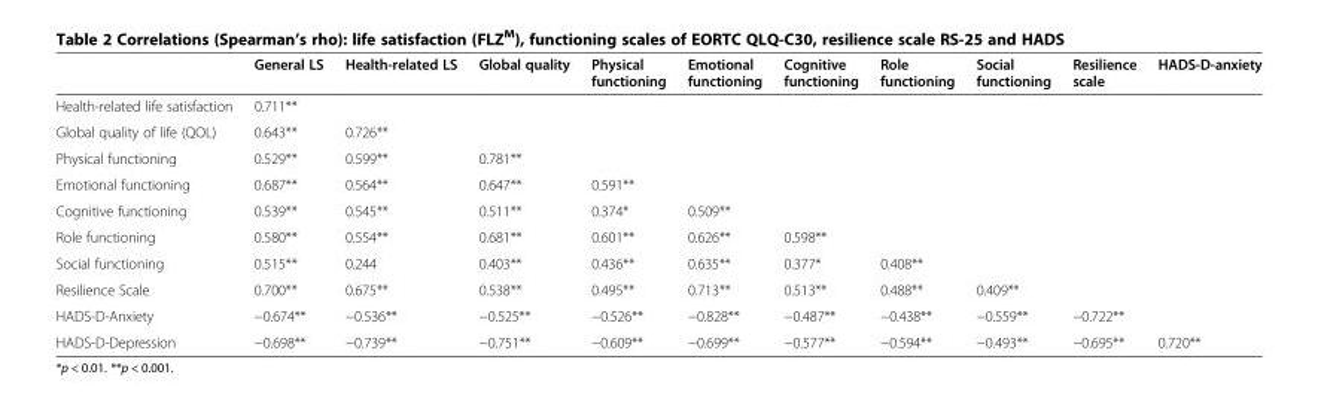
<table><thead><tr><td></td><td>General LS</td><td>Health-related LS</td><td>Global quality</td><td>Physical functioning</td><td>Emotional functioning</td><td>Cognitive functioning</td><td>Role functioning</td><td>Social functioning</td><td>Resilience scale</td><td>HADS-D-anxiety</td></tr></thead><tbody><tr><td>Health-related life satisfaction</td><td>0.711**</td><td></td><td></td><td></td><td></td><td></td><td></td><td></td><td></td><td></td></tr><tr><td>Global quality of life (QOL)</td><td>0.643**</td><td>0.726**</td><td></td><td></td><td></td><td></td><td></td><td></td><td></td><td></td></tr><tr><td>Physical functioning</td><td>0.529**</td><td>0.599**</td><td>0.781**</td><td></td><td></td><td></td><td></td><td></td><td></td><td></td></tr><tr><td>Emotional functioning</td><td>0.687**</td><td>0.564**</td><td>0.647**</td><td>0.591**</td><td></td><td></td><td></td><td></td><td></td><td></td></tr><tr><td>Cognitive functioning</td><td>0.539**</td><td>0.545**</td><td>0.511**</td><td>0.374*</td><td>0.509**</td><td></td><td></td><td></td><td></td><td></td></tr><tr><td>Role functioning</td><td>0.580**</td><td>0.554**</td><td>0.681**</td><td>0.601**</td><td>0.626**</td><td>0.598**</td><td></td><td></td><td></td><td></td></tr><tr><td>Social functioning</td><td>0.515**</td><td>0.244</td><td>0.403**</td><td>0.436**</td><td>0.635**</td><td>0.377*</td><td>0.408**</td><td></td><td></td><td></td></tr><tr><td>Resilience Scale</td><td>0.700**</td><td>0.675**</td><td>0.538**</td><td>0.495**</td><td>0.713**</td><td>0.513**</td><td>0.488**</td><td>0.409**</td><td></td><td></td></tr><tr><td>HADS-D-Anxiety</td><td>−0.674**</td><td>−0.536**</td><td>−0.525**</td><td>−0.526**</td><td>−0.828**</td><td>−0.487**</td><td>−0.438**</td><td>−0.559**</td><td>−0.722**</td><td></td></tr><tr><td>HADS-D-Depression</td><td>−0.698**</td><td>−0.739**</td><td>−0.751**</td><td>−0.609**</td><td>−0.699**</td><td>−0.577**</td><td>−0.594**</td><td>−0.493**</td><td>−0.695**</td><td>0.720**</td></tr></tbody></table>